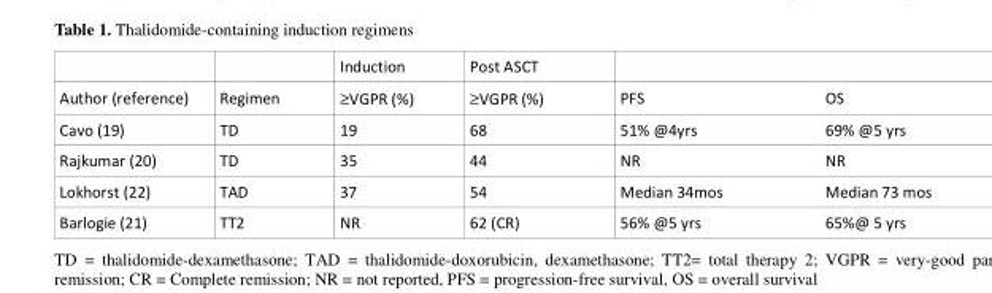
<table><thead><tr><td rowspan="2">Author (reference)</td><td rowspan="2">Regimen</td><td rowspan="2">Induction ≥VGPR (%)</td><td rowspan="2">Post ASCT ≥VGPR (%)</td><td rowspan="2">PFS</td><td rowspan="2">OS</td></tr><tr></tr></thead><tbody><tr><td>Cavo (19)</td><td>TD</td><td>19</td><td>68</td><td>51% @4yrs</td><td>69% @5 yrs</td></tr><tr><td>Rajkumar (20)</td><td>TD</td><td>35</td><td>44</td><td>NR</td><td>NR</td></tr><tr><td>Lokhorst (22)</td><td>TAD</td><td>37</td><td>54</td><td>Median 34mos</td><td>Median 73 mos</td></tr><tr><td>Barlogie (21)</td><td>TT2</td><td>NR</td><td>62 (CR)</td><td>56% @5 yrs</td><td>65%@ 5 yrs</td></tr></tbody></table>